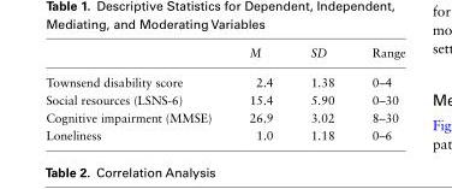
<table><thead><tr><td></td><td>M</td><td>SD</td><td>Range</td></tr></thead><tbody><tr><td>Townsend disability score</td><td>2.4</td><td>1.38</td><td>0–4</td></tr><tr><td>Social resources (LSNS-6)</td><td>15.4</td><td>5.90</td><td>0–30</td></tr><tr><td>Cognitive impairment (MMSE)</td><td>26.9</td><td>3.02</td><td>8–30</td></tr><tr><td>Loneliness</td><td>1.0</td><td>1.18</td><td>0–6</td></tr></tbody></table>